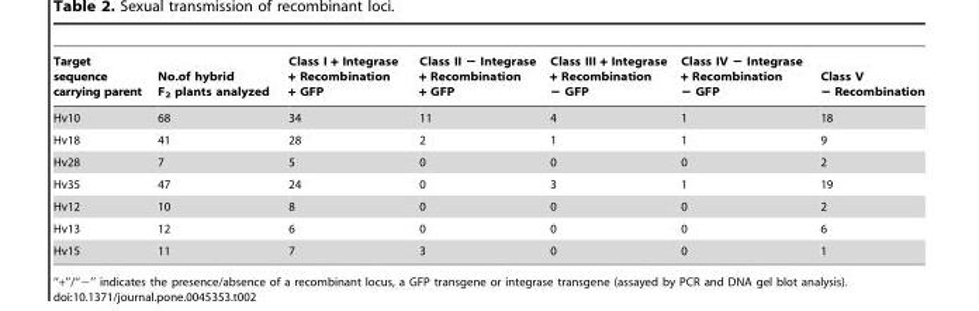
<table><thead><tr><td>Target sequence carrying parent</td><td>No.of hybrid F<sub>2</sub> plants analyzed</td><td>Class I + Integrase + Recombination + GFP</td><td>Class II − Integrase + Recombination + GFP</td><td>Class III + Integrase + Recombination − GFP</td><td>Class IV − Integrase + Recombination − GFP</td><td>Class V − Recombination</td></tr></thead><tbody><tr><td>Hv10</td><td>68</td><td>34</td><td>11</td><td>4</td><td>1</td><td>18</td></tr><tr><td>Hv18</td><td>41</td><td>28</td><td>2</td><td>1</td><td>1</td><td>9</td></tr><tr><td>Hv28</td><td>7</td><td>5</td><td>0</td><td>0</td><td>0</td><td>2</td></tr><tr><td>Hv35</td><td>47</td><td>24</td><td>0</td><td>3</td><td>1</td><td>19</td></tr><tr><td>Hv12</td><td>10</td><td>8</td><td>0</td><td>0</td><td>0</td><td>2</td></tr><tr><td>Hv13</td><td>12</td><td>6</td><td>0</td><td>0</td><td>0</td><td>6</td></tr><tr><td>Hv15</td><td>11</td><td>7</td><td>3</td><td>0</td><td>0</td><td>1</td></tr></tbody></table>